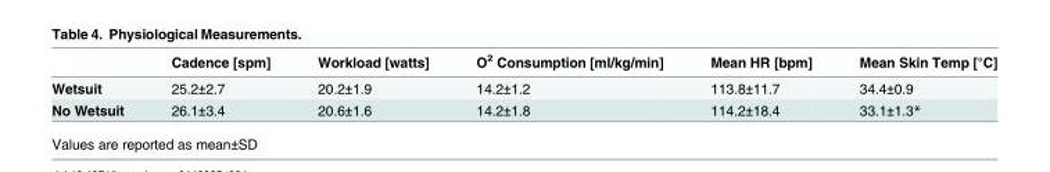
<table><thead><tr><td></td><td>Cadence [spm]</td><td>Workload [watts]</td><td>O<sup>2</sup> Consumption [ml/kg/min]</td><td>Mean HR [bpm]</td><td>Mean Skin Temp [°C]</td></tr></thead><tbody><tr><td>Wetsuit</td><td>25.2±2.7</td><td>20.2±1.9</td><td>14.2±1.2</td><td>113.8±11.7</td><td>34.4±0.9</td></tr><tr><td>No Wetsuit</td><td>26.1±3.4</td><td>20.6±1.6</td><td>14.2±1.8</td><td>114.2±18.4</td><td>33.1±1.3*</td></tr></tbody></table>